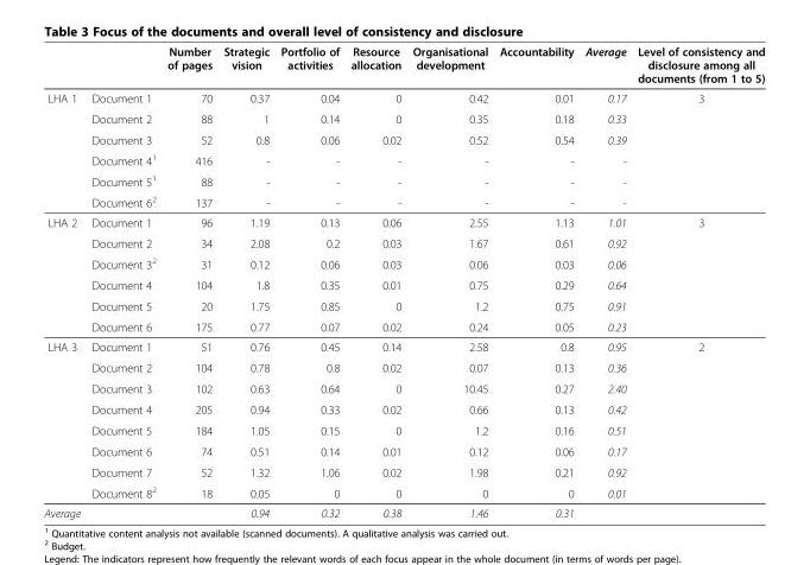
<table><thead><tr><td></td><td></td><td>Number of pages</td><td>Strategic vision</td><td>Portfolio of activities</td><td>Resource allocation</td><td>Organisational development</td><td>Accountability</td><td>Average</td><td>Level of consistency and disclosure among all documents (from 1 to 5)</td></tr></thead><tbody><tr><td rowspan="6">LHA 1</td><td>Document 1</td><td>70</td><td>0.37</td><td>0.04</td><td>0</td><td>0.42</td><td>0.01</td><td>0.17</td><td>3</td></tr><tr><td>Document 2</td><td>88</td><td>1</td><td>0.14</td><td>0</td><td>0.35</td><td>0.18</td><td>0.33</td><td></td></tr><tr><td>Document 3</td><td>52</td><td>0.8</td><td>0.06</td><td>0.02</td><td>0.52</td><td>0.54</td><td>0.39</td><td></td></tr><tr><td>Document 4<sup>1</sup></td><td>416</td><td>-</td><td>-</td><td>-</td><td>-</td><td>-</td><td>-</td><td></td></tr><tr><td>Document 5<sup>1</sup></td><td>88</td><td>-</td><td>-</td><td>-</td><td>-</td><td>-</td><td>-</td><td></td></tr><tr><td>Document 6<sup>2</sup></td><td>137</td><td>-</td><td>-</td><td>-</td><td>-</td><td>-</td><td>-</td><td></td></tr><tr><td rowspan="6">LHA 2</td><td>Document 1</td><td>96</td><td>1.19</td><td>0.13</td><td>0.06</td><td>2.55</td><td>1.13</td><td>1.01</td><td>3</td></tr><tr><td>Document 2</td><td>34</td><td>2.08</td><td>0.2</td><td>0.03</td><td>1.67</td><td>0.61</td><td>0.92</td><td></td></tr><tr><td>Document 3<sup>2</sup></td><td>31</td><td>0.12</td><td>0.06</td><td>0.03</td><td>0.06</td><td>0.03</td><td>0.06</td><td></td></tr><tr><td>Document 4</td><td>104</td><td>1.8</td><td>0.35</td><td>0.01</td><td>0.75</td><td>0.29</td><td>0.64</td><td></td></tr><tr><td>Document 5</td><td>20</td><td>1.75</td><td>0.85</td><td>0</td><td>1.2</td><td>0.75</td><td>0.91</td><td></td></tr><tr><td>Document 6</td><td>175</td><td>0.77</td><td>0.07</td><td>0.02</td><td>0.24</td><td>0.05</td><td>0.23</td><td></td></tr><tr><td rowspan="8">LHA 3</td><td>Document 1</td><td>51</td><td>0.76</td><td>0.45</td><td>0.14</td><td>2.58</td><td>0.8</td><td>0.95</td><td>2</td></tr><tr><td>Document 2</td><td>104</td><td>0.78</td><td>0.8</td><td>0.02</td><td>0.07</td><td>0.13</td><td>0.36</td><td></td></tr><tr><td>Document 3</td><td>102</td><td>0.63</td><td>0.64</td><td>0</td><td>10.45</td><td>0.27</td><td>2.40</td><td></td></tr><tr><td>Document 4</td><td>205</td><td>0.94</td><td>0.33</td><td>0.02</td><td>0.66</td><td>0.13</td><td>0.42</td><td></td></tr><tr><td>Document 5</td><td>184</td><td>1.05</td><td>0.15</td><td>0</td><td>1.2</td><td>0.16</td><td>0.51</td><td></td></tr><tr><td>Document 6</td><td>74</td><td>0.51</td><td>0.14</td><td>0.01</td><td>0.12</td><td>0.06</td><td>0.17</td><td></td></tr><tr><td>Document 7</td><td>52</td><td>1.32</td><td>1.06</td><td>0.02</td><td>1.98</td><td>0.21</td><td>0.92</td><td></td></tr><tr><td>Document 8<sup>2</sup></td><td>18</td><td>0.05</td><td>0</td><td>0</td><td>0</td><td>0</td><td>0.01</td><td></td></tr><tr><td>Average</td><td></td><td></td><td>0.94</td><td>0.32</td><td>0.38</td><td>1.46</td><td>0.31</td><td></td><td></td></tr></tbody></table>